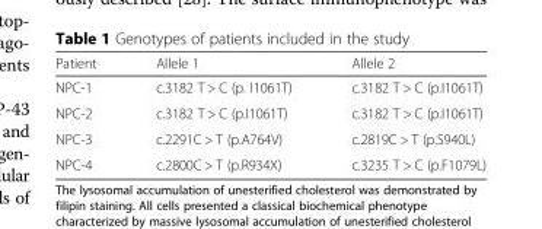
<table><thead><tr><td>Patient</td><td>Allele 1</td><td>Allele 2</td></tr></thead><tbody><tr><td>NPC-1</td><td>c.3182 T &gt; C (p. I1061T)</td><td>c.3182 T &gt; C (p.I1061T)</td></tr><tr><td>NPC-2</td><td>c.3182 T &gt; C (p.I1061T)</td><td>c.3182 T &gt; C (p.I1061T)</td></tr><tr><td>NPC-3</td><td>c.2291C &gt; T (p.A764V)</td><td>c.2819C &gt; T (p.S940L)</td></tr><tr><td>NPC-4</td><td>c.2800C &gt; T (p.R934X)</td><td>c.3235 T &gt; C (p.F1079L)</td></tr></tbody></table>